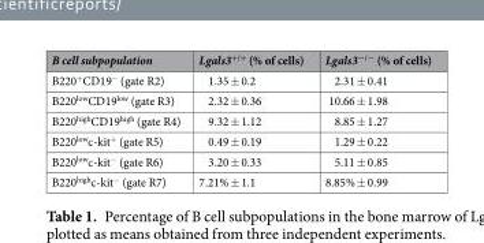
<table><thead><tr><td>B cell subpopulation</td><td>Lgals3<sup>+/+</sup> (% of cells)</td><td>Lgals3<sup>−/−</sup> (% of cells)</td></tr></thead><tbody><tr><td>B220<sup>+</sup>CD19<sup>−</sup> (gate R2)</td><td>1.35 ± 0.2</td><td>2.31 ± 0.41</td></tr><tr><td>B220<sup>low</sup>CD19<sup>low</sup> (gate R3)</td><td>2.32 ± 0.36</td><td>10.66 ± 1.98</td></tr><tr><td>B220<sup>high</sup>CD19<sup>high</sup> (gate R4)</td><td>9.32 ± 1.12</td><td>8.85 ± 1.27</td></tr><tr><td>B220<sup>low</sup>c-kit<sup>+</sup> (gate R5)</td><td>0.49 ± 0.19</td><td>1.29 ± 0.22</td></tr><tr><td>B220<sup>low</sup>c-kit<sup>−</sup> (gate R6)</td><td>3.20 ± 0.33</td><td>5.11 ± 0.85</td></tr><tr><td>B220<sup>high</sup>c-kit<sup>−</sup> (gate R7)</td><td>7.21% ± 1.1</td><td>8.85% ± 0.99</td></tr></tbody></table>